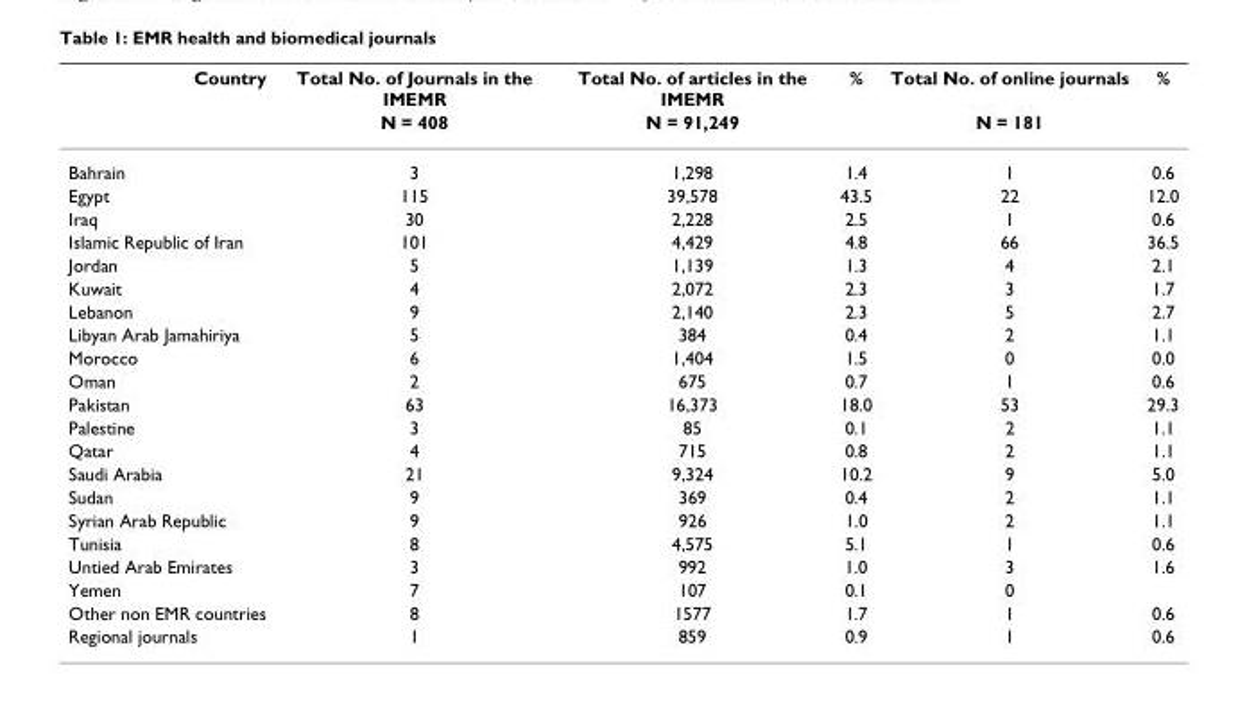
<table><thead><tr><td rowspan="2">Country</td><td rowspan="2">Total No. of Journals in the IMEMR N = 408</td><td rowspan="2">Total No. of articles in the IMEMR N = 91,249</td><td rowspan="2">%</td><td rowspan="2">Total No. of online journals N = 181</td><td rowspan="2">%</td></tr><tr></tr></thead><tbody><tr><td>Bahrain</td><td>3</td><td>1,298</td><td>1.4</td><td>1</td><td>0.6</td></tr><tr><td>Egypt</td><td>115</td><td>39,578</td><td>43.5</td><td>22</td><td>12.0</td></tr><tr><td>Iraq</td><td>30</td><td>2,228</td><td>2.5</td><td>1</td><td>0.6</td></tr><tr><td>Islamic Republic of Iran</td><td>101</td><td>4,429</td><td>4.8</td><td>66</td><td>36.5</td></tr><tr><td>Jordan</td><td>5</td><td>1,139</td><td>1.3</td><td>4</td><td>2.1</td></tr><tr><td>Kuwait</td><td>4</td><td>2,072</td><td>2.3</td><td>3</td><td>1.7</td></tr><tr><td>Lebanon</td><td>9</td><td>2,140</td><td>2.3</td><td>5</td><td>2.7</td></tr><tr><td>Libyan Arab Jamahiriya</td><td>5</td><td>384</td><td>0.4</td><td>2</td><td>1.1</td></tr><tr><td>Morocco</td><td>6</td><td>1,404</td><td>1.5</td><td>0</td><td>0.0</td></tr><tr><td>Oman</td><td>2</td><td>675</td><td>0.7</td><td>1</td><td>0.6</td></tr><tr><td>Pakistan</td><td>63</td><td>16,373</td><td>18.0</td><td>53</td><td>29.3</td></tr><tr><td>Palestine</td><td>3</td><td>85</td><td>0.1</td><td>2</td><td>1.1</td></tr><tr><td>Qatar</td><td>4</td><td>715</td><td>0.8</td><td>2</td><td>1.1</td></tr><tr><td>Saudi Arabia</td><td>21</td><td>9,324</td><td>10.2</td><td>9</td><td>5.0</td></tr><tr><td>Sudan</td><td>9</td><td>369</td><td>0.4</td><td>2</td><td>1.1</td></tr><tr><td>Syrian Arab Republic</td><td>9</td><td>926</td><td>1.0</td><td>2</td><td>1.1</td></tr><tr><td>Tunisia</td><td>8</td><td>4,575</td><td>5.1</td><td>1</td><td>0.6</td></tr><tr><td>Untied Arab Emirates</td><td>3</td><td>992</td><td>1.0</td><td>3</td><td>1.6</td></tr><tr><td>Yemen</td><td>7</td><td>107</td><td>0.1</td><td>0</td><td></td></tr><tr><td>Other non EMR countries</td><td>8</td><td>1577</td><td>1.7</td><td>1</td><td>0.6</td></tr><tr><td>Regional journals</td><td>1</td><td>859</td><td>0.9</td><td>1</td><td>0.6</td></tr></tbody></table>